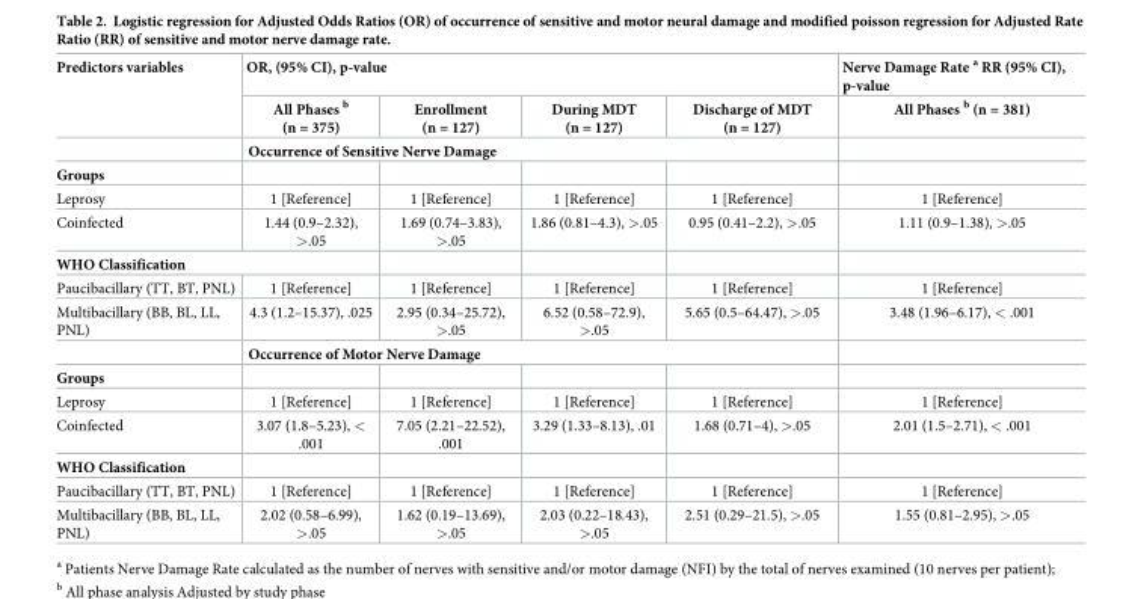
<table><thead><tr><td rowspan="2">Predictors variables</td><td colspan="4">OR, (95% CI), p-value</td><td rowspan="2">Nerve Damage Rate <sup>a</sup> RR (95% CI), p-value All Phases <sup>b</sup> (n = 381)</td></tr><tr><td>All Phases <sup>b</sup> (n = 375)</td><td>Enrollment (n = 127)</td><td>During MDT (n = 127)</td><td>Discharge of MDT (n = 127)</td></tr></thead><tbody><tr><td></td><td colspan="4">Occurrence of Sensitive Nerve Damage</td><td></td></tr><tr><td colspan="6">Groups</td></tr><tr><td>Leprosy</td><td>1 [Reference]</td><td>1 [Reference]</td><td>1 [Reference]</td><td>1 [Reference]</td><td>1 [Reference]</td></tr><tr><td>Coinfected</td><td>1.44 (0.9–2.32), &gt;.05</td><td>1.69 (0.74–3.83), &gt;.05</td><td>1.86 (0.81–4.3), &gt;.05</td><td>0.95 (0.41–2.2), &gt;.05</td><td>1.11 (0.9–1.38), &gt;.05</td></tr><tr><td colspan="6">WHO Classification</td></tr><tr><td>Paucibacillary (TT, BT, PNL)</td><td>1 [Reference]</td><td>1 [Reference]</td><td>1 [Reference]</td><td>1 [Reference]</td><td>1 [Reference]</td></tr><tr><td rowspan="2">Multibacillary (BB, BL, LL, PNL)</td><td>4.3 (1.2–15.37), .025</td><td>2.95 (0.34–25.72), &gt;.05</td><td>6.52 (0.58–72.9), &gt;.05</td><td>5.65 (0.5–64.47), &gt;.05</td><td>3.48 (1.96–6.17), &lt; .001</td></tr><tr><td colspan="4">Occurrence of Motor Nerve Damage</td><td></td></tr><tr><td colspan="6">Groups</td></tr><tr><td>Leprosy</td><td>1 [Reference]</td><td>1 [Reference]</td><td>1 [Reference]</td><td>1 [Reference]</td><td>1 [Reference]</td></tr><tr><td>Coinfected</td><td>3.07 (1.8–5.23), &lt; .001</td><td>7.05 (2.21–22.52), .001</td><td>3.29 (1.33–8.13), .01</td><td>1.68 (0.71–4), &gt;.05</td><td>2.01 (1.5–2.71), &lt; .001</td></tr><tr><td colspan="6">WHO Classification</td></tr><tr><td>Paucibacillary (TT, BT, PNL)</td><td>1 [Reference]</td><td>1 [Reference]</td><td>1 [Reference]</td><td>1 [Reference]</td><td>1 [Reference]</td></tr><tr><td>Multibacillary (BB, BL, LL, PNL)</td><td>2.02 (0.58–6.99), &gt;.05</td><td>1.62 (0.19–13.69), &gt;.05</td><td>2.03 (0.22–18.43), &gt;.05</td><td>2.51 (0.29–21.5), &gt;.05</td><td>1.55 (0.81–2.95), &gt;.05</td></tr></tbody></table>